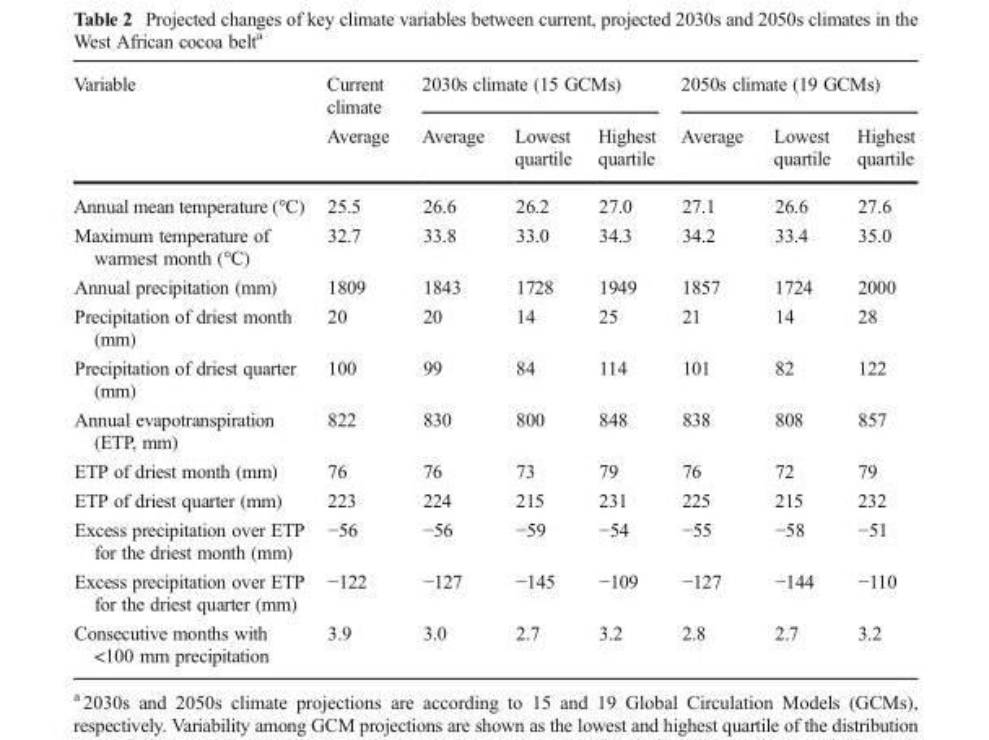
<table><thead><tr><td rowspan="2">Variable</td><td rowspan="2">Current climate Average</td><td colspan="3">2030s climate (15 GCMs)</td><td colspan="3">2050s climate (19 GCMs)</td></tr><tr><td>Average</td><td>Lowest quartile</td><td>Highest quartile</td><td>Average</td><td>Lowest quartile</td><td>Highest quartile</td></tr></thead><tbody><tr><td>Annual mean temperature (°C)</td><td>25.5</td><td>26.6</td><td>26.2</td><td>27.0</td><td>27.1</td><td>26.6</td><td>27.6</td></tr><tr><td>Maximum temperature of warmest month (°C)</td><td>32.7</td><td>33.8</td><td>33.0</td><td>34.3</td><td>34.2</td><td>33.4</td><td>35.0</td></tr><tr><td>Annual precipitation (mm)</td><td>1809</td><td>1843</td><td>1728</td><td>1949</td><td>1857</td><td>1724</td><td>2000</td></tr><tr><td>Precipitation of driest month (mm)</td><td>20</td><td>20</td><td>14</td><td>25</td><td>21</td><td>14</td><td>28</td></tr><tr><td>Precipitation of driest quarter (mm)</td><td>100</td><td>99</td><td>84</td><td>114</td><td>101</td><td>82</td><td>122</td></tr><tr><td>Annual evapotranspiration (ETP, mm)</td><td>822</td><td>830</td><td>800</td><td>848</td><td>838</td><td>808</td><td>857</td></tr><tr><td>ETP of driest month (mm)</td><td>76</td><td>76</td><td>73</td><td>79</td><td>76</td><td>72</td><td>79</td></tr><tr><td>ETP of driest quarter (mm)</td><td>223</td><td>224</td><td>215</td><td>231</td><td>225</td><td>215</td><td>232</td></tr><tr><td>Excess precipitation over ETP for the driest month (mm)</td><td>−56</td><td>−56</td><td>−59</td><td>−54</td><td>−55</td><td>−58</td><td>−51</td></tr><tr><td>Excess precipitation over ETP for the driest quarter (mm)</td><td>−122</td><td>−127</td><td>−145</td><td>−109</td><td>−127</td><td>−144</td><td>−110</td></tr><tr><td>Consecutive months with &lt;100 mm precipitation</td><td>3.9</td><td>3.0</td><td>2.7</td><td>3.2</td><td>2.8</td><td>2.7</td><td>3.2</td></tr></tbody></table>